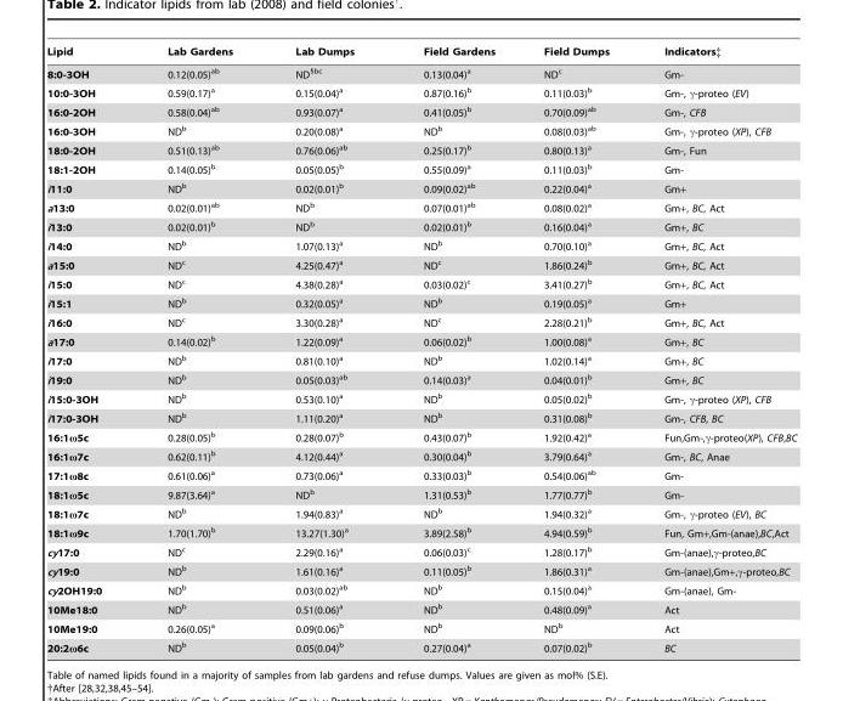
<table><thead><tr><td>Lipid</td><td>Lab Gardens</td><td>Lab Dumps</td><td>Field Gardens</td><td>Field Dumps</td><td>Indicators‡</td></tr></thead><tbody><tr><td>8:0-3OH</td><td>0.12(0.05)<sup>ab</sup></td><td>ND§<sup>bc</sup></td><td>0.13(0.04)<sup>a</sup></td><td>ND<sup>c</sup></td><td>Gm-</td></tr><tr><td>10:0-3OH</td><td>0.59(0.17)<sup>a</sup></td><td>0.15(0.04)<sup>a</sup></td><td>0.87(0.16)<sup>b</sup></td><td>0.11(0.03)<sup>b</sup></td><td>Gm-, γ-proteo (EV)</td></tr><tr><td>16:0-2OH</td><td>0.58(0.04)<sup>ab</sup></td><td>0.93(0.07)<sup>a</sup></td><td>0.41(0.05)<sup>b</sup></td><td>0.70(0.09)<sup>ab</sup></td><td>Gm-, CFB</td></tr><tr><td>16:0-3OH</td><td>ND<sup>b</sup></td><td>0.20(0.08)<sup>a</sup></td><td>ND<sup>b</sup></td><td>0.08(0.03)<sup>ab</sup></td><td>Gm-, γ-proteo (XP), CFB</td></tr><tr><td>18:0-2OH</td><td>0.51(0.13)<sup>ab</sup></td><td>0.76(0.06)<sup>ab</sup></td><td>0.25(0.17)<sup>b</sup></td><td>0.80(0.13)<sup>a</sup></td><td>Gm-, Fun</td></tr><tr><td>18:1-2OH</td><td>0.14(0.05)<sup>b</sup></td><td>0.05(0.05)<sup>b</sup></td><td>0.55(0.09)<sup>a</sup></td><td>0.11(0.03)<sup>b</sup></td><td>Gm-</td></tr><tr><td>i11:0</td><td>ND<sup>b</sup></td><td>0.02(0.01)<sup>b</sup></td><td>0.09(0.02)<sup>ab</sup></td><td>0.22(0.04)<sup>a</sup></td><td>Gm+</td></tr><tr><td>a13:0</td><td>0.02(0.01)<sup>ab</sup></td><td>ND<sup>b</sup></td><td>0.07(0.01)<sup>ab</sup></td><td>0.08(0.02)<sup>a</sup></td><td>Gm+, BC, Act</td></tr><tr><td>i13:0</td><td>0.02(0.01)<sup>b</sup></td><td>ND<sup>b</sup></td><td>0.02(0.01)<sup>b</sup></td><td>0.16(0.04)<sup>a</sup></td><td>Gm+, BC</td></tr><tr><td>i14:0</td><td>ND<sup>b</sup></td><td>1.07(0.13)<sup>a</sup></td><td>ND<sup>b</sup></td><td>0.70(0.10)<sup>a</sup></td><td>Gm+, BC, Act</td></tr><tr><td>a15:0</td><td>ND<sup>c</sup></td><td>4.25(0.47)<sup>a</sup></td><td>ND<sup>c</sup></td><td>1.86(0.24)<sup>b</sup></td><td>Gm+, BC, Act</td></tr><tr><td>i15:0</td><td>ND<sup>c</sup></td><td>4.38(0.28)<sup>a</sup></td><td>0.03(0.02)<sup>c</sup></td><td>3.41(0.27)<sup>b</sup></td><td>Gm+, BC, Act</td></tr><tr><td>i15:1</td><td>ND<sup>b</sup></td><td>0.32(0.05)<sup>a</sup></td><td>ND<sup>b</sup></td><td>0.19(0.05)<sup>a</sup></td><td>Gm+</td></tr><tr><td>i16:0</td><td>ND<sup>c</sup></td><td>3.30(0.28)<sup>a</sup></td><td>ND<sup>c</sup></td><td>2.28(0.21)<sup>b</sup></td><td>Gm+, BC, Act</td></tr><tr><td>a17:0</td><td>0.14(0.02)<sup>b</sup></td><td>1.22(0.09)<sup>a</sup></td><td>0.06(0.02)<sup>b</sup></td><td>1.00(0.08)<sup>a</sup></td><td>Gm+, BC</td></tr><tr><td>i17:0</td><td>ND<sup>b</sup></td><td>0.81(0.10)<sup>a</sup></td><td>ND<sup>b</sup></td><td>1.02(0.14)<sup>a</sup></td><td>Gm+, BC</td></tr><tr><td>i19:0</td><td>ND<sup>b</sup></td><td>0.05(0.03)<sup>ab</sup></td><td>0.14(0.03)<sup>a</sup></td><td>0.04(0.01)<sup>b</sup></td><td>Gm+, BC</td></tr><tr><td>i15:0-3OH</td><td>ND<sup>b</sup></td><td>0.53(0.10)<sup>a</sup></td><td>ND<sup>b</sup></td><td>0.05(0.02)<sup>b</sup></td><td>Gm-, γ-proteo (XP), CFB</td></tr><tr><td>i17:0-3OH</td><td>ND<sup>b</sup></td><td>1.11(0.20)<sup>a</sup></td><td>ND<sup>b</sup></td><td>0.31(0.08)<sup>b</sup></td><td>Gm-, CFB, BC</td></tr><tr><td>16:1ω5c</td><td>0.28(0.05)<sup>b</sup></td><td>0.28(0.07)<sup>b</sup></td><td>0.43(0.07)<sup>b</sup></td><td>1.92(0.42)<sup>a</sup></td><td>Fun,Gm-,γ-proteo(XP), CFB,BC</td></tr><tr><td>16:1ω7c</td><td>0.62(0.11)<sup>b</sup></td><td>4.12(0.44)<sup>a</sup></td><td>0.30(0.04)<sup>b</sup></td><td>3.79(0.64)<sup>a</sup></td><td>Gm-, BC, Anae</td></tr><tr><td>17:1ω8c</td><td>0.61(0.06)<sup>a</sup></td><td>0.73(0.06)<sup>a</sup></td><td>0.33(0.03)<sup>b</sup></td><td>0.54(0.06)<sup>ab</sup></td><td>Gm-</td></tr><tr><td>18:1ω5c</td><td>9.87(3.64)<sup>a</sup></td><td>ND<sup>b</sup></td><td>1.31(0.53)<sup>b</sup></td><td>1.77(0.77)<sup>b</sup></td><td>Gm-</td></tr><tr><td>18:1ω7c</td><td>ND<sup>b</sup></td><td>1.94(0.83)<sup>a</sup></td><td>ND<sup>b</sup></td><td>1.94(0.32)<sup>a</sup></td><td>Gm-, γ-proteo (EV), BC</td></tr><tr><td>18:1ω9c</td><td>1.70(1.70)<sup>b</sup></td><td>13.27(1.30)<sup>a</sup></td><td>3.89(2.58)<sup>b</sup></td><td>4.94(0.59)<sup>b</sup></td><td>Fun, Gm+,Gm-(anae),BC,Act</td></tr><tr><td>cy17:0</td><td>ND<sup>c</sup></td><td>2.29(0.16)<sup>a</sup></td><td>0.06(0.03)<sup>c</sup></td><td>1.28(0.17)<sup>b</sup></td><td>Gm-(anae),γ-proteo,BC</td></tr><tr><td>cy19:0</td><td>ND<sup>b</sup></td><td>1.61(0.16)<sup>a</sup></td><td>0.11(0.05)<sup>b</sup></td><td>1.86(0.31)<sup>a</sup></td><td>Gm-(anae),Gm+,γ-proteo,BC</td></tr><tr><td>cy2OH19:0</td><td>ND<sup>b</sup></td><td>0.03(0.02)<sup>ab</sup></td><td>ND<sup>b</sup></td><td>0.15(0.04)<sup>a</sup></td><td>Gm-(anae), Gm-</td></tr><tr><td>10Me18:0</td><td>ND<sup>b</sup></td><td>0.51(0.06)<sup>a</sup></td><td>ND<sup>b</sup></td><td>0.48(0.09)<sup>a</sup></td><td>Act</td></tr><tr><td>10Me19:0</td><td>0.26(0.05)<sup>a</sup></td><td>0.09(0.06)<sup>b</sup></td><td>ND<sup>b</sup></td><td>ND<sup>b</sup></td><td>Act</td></tr><tr><td>20:2ω6c</td><td>ND<sup>b</sup></td><td>0.05(0.04)<sup>b</sup></td><td>0.27(0.04)<sup>a</sup></td><td>0.07(0.02)<sup>b</sup></td><td>BC</td></tr></tbody></table>